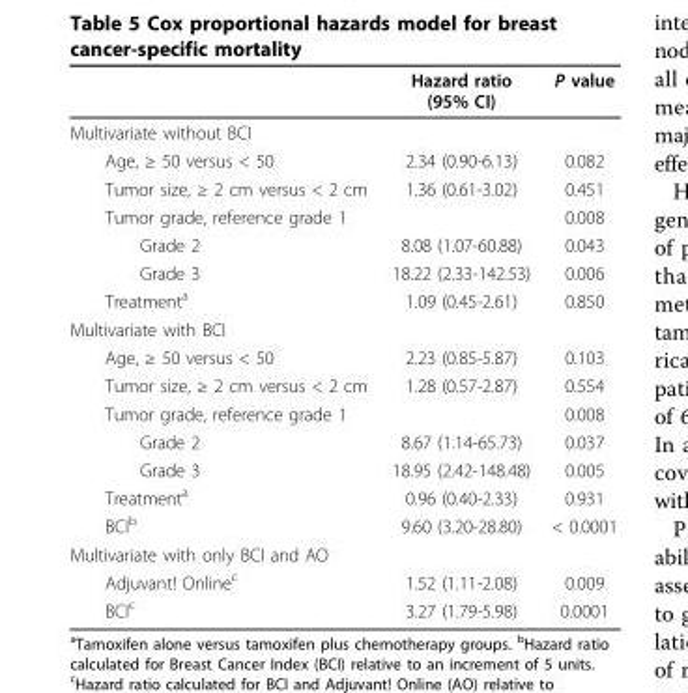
<table><thead><tr><td></td><td>Hazard ratio (95% CI)</td><td>P value</td></tr></thead><tbody><tr><td colspan="3">Multivariate without BCI</td></tr><tr><td>Age, ≥ 50 versus &lt; 50</td><td>2.34 (0.90-6.13)</td><td>0.082</td></tr><tr><td>Tumor size, ≥ 2 cm versus &lt; 2 cm</td><td>1.36 (0.61-3.02)</td><td>0.451</td></tr><tr><td>Tumor grade, reference grade 1</td><td></td><td>0.008</td></tr><tr><td>Grade 2</td><td>8.08 (1.07-60.88)</td><td>0.043</td></tr><tr><td>Grade 3</td><td>18.22 (2.33-142.53)</td><td>0.006</td></tr><tr><td>Treatment<sup>a</sup></td><td>1.09 (0.45-2.61)</td><td>0.850</td></tr><tr><td colspan="3">Multivariate with BCI</td></tr><tr><td>Age, ≥ 50 versus &lt; 50</td><td>2.23 (0.85-5.87)</td><td>0.103</td></tr><tr><td>Tumor size, ≥ 2 cm versus &lt; 2 cm</td><td>1.28 (0.57-2.87)</td><td>0.554</td></tr><tr><td>Tumor grade, reference grade 1</td><td></td><td>0.008</td></tr><tr><td>Grade 2</td><td>8.67 (1.14-65.73)</td><td>0.037</td></tr><tr><td>Grade 3</td><td>18.95 (2.42-148.48)</td><td>0.005</td></tr><tr><td>Treatment<sup>a</sup></td><td>0.96 (0.40-2.33)</td><td>0.931</td></tr><tr><td>BCI<sup>b</sup></td><td>9.60 (3.20-28.80)</td><td>&lt; 0.0001</td></tr><tr><td colspan="3">Multivariate with only BCI and AO</td></tr><tr><td>Adjuvant! Online<sup>c</sup></td><td>1.52 (1.11-2.08)</td><td>0.009</td></tr><tr><td>BCI<sup>c</sup></td><td>3.27 (1.79-5.98)</td><td>0.0001</td></tr></tbody></table>